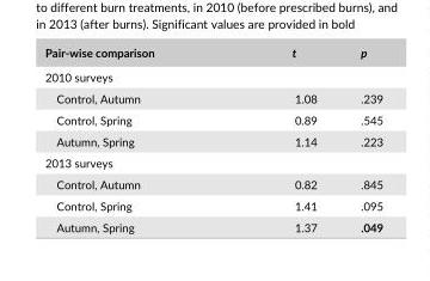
<table><thead><tr><td>Pair- wise comparison</td><td>t</td><td>p</td></tr></thead><tbody><tr><td colspan="3">2010 surveys</td></tr><tr><td>Control, Autumn</td><td>1.08</td><td>.239</td></tr><tr><td>Control, Spring</td><td>0.89</td><td>.545</td></tr><tr><td>Autumn, Spring</td><td>1.14</td><td>.223</td></tr><tr><td colspan="3">2013 surveys</td></tr><tr><td>Control, Autumn</td><td>0.82</td><td>.845</td></tr><tr><td>Control, Spring</td><td>1.41</td><td>.095</td></tr><tr><td>Autumn, Spring</td><td>1.37</td><td>.049</td></tr></tbody></table>